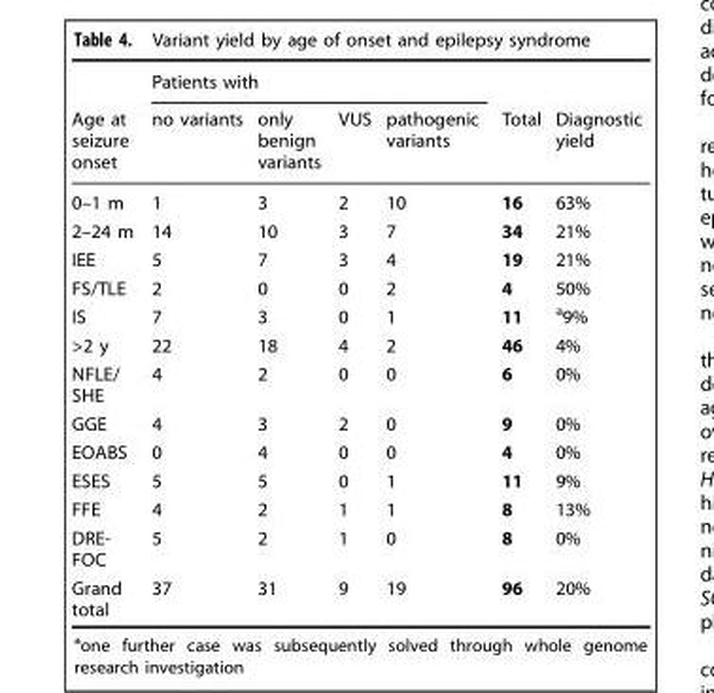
<table><thead><tr><td rowspan="2">Age at seizure onset</td><td colspan="4">Patients with</td><td rowspan="2">Total</td><td rowspan="2">Diagnostic yield</td></tr><tr><td>no variants</td><td>only benign variants</td><td>VUS</td><td>pathogenic variants</td></tr></thead><tbody><tr><td>0–1 m</td><td>1</td><td>3</td><td>2</td><td>10</td><td>16</td><td>63%</td></tr><tr><td>2–24 m</td><td>14</td><td>10</td><td>3</td><td>7</td><td>34</td><td>21%</td></tr><tr><td>IEE</td><td>5</td><td>7</td><td>3</td><td>4</td><td>19</td><td>21%</td></tr><tr><td>FS/TLE</td><td>2</td><td>0</td><td>0</td><td>2</td><td>4</td><td>50%</td></tr><tr><td>IS</td><td>7</td><td>3</td><td>0</td><td>1</td><td>11</td><td><sup>a</sup>9%</td></tr><tr><td>&gt;2 y</td><td>22</td><td>18</td><td>4</td><td>2</td><td>46</td><td>4%</td></tr><tr><td>NFLE/ SHE</td><td>4</td><td>2</td><td>0</td><td>0</td><td>6</td><td>0%</td></tr><tr><td>GGE</td><td>4</td><td>3</td><td>2</td><td>0</td><td>9</td><td>0%</td></tr><tr><td>EOABS</td><td>0</td><td>4</td><td>0</td><td>0</td><td>4</td><td>0%</td></tr><tr><td>ESES</td><td>5</td><td>5</td><td>0</td><td>1</td><td>11</td><td>9%</td></tr><tr><td>FFE</td><td>4</td><td>2</td><td>1</td><td>1</td><td>8</td><td>13%</td></tr><tr><td>DRE- FOC</td><td>5</td><td>2</td><td>1</td><td>0</td><td>8</td><td>0%</td></tr><tr><td>Grand total</td><td>37</td><td>31</td><td>9</td><td>19</td><td>96</td><td>20%</td></tr></tbody></table>